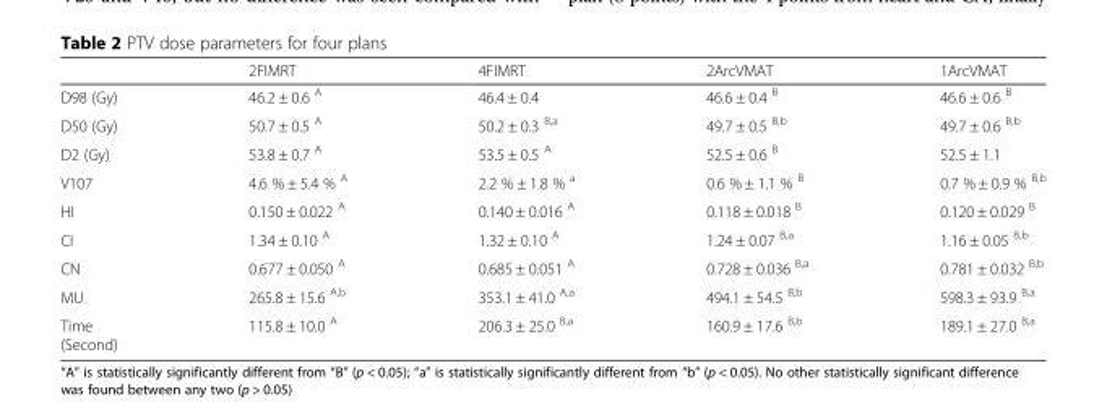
<table><thead><tr><td></td><td>2FIMRT</td><td>4FIMRT</td><td>2ArcVMAT</td><td>1ArcVMAT</td></tr></thead><tbody><tr><td>D98 (Gy)</td><td>46.2 ± 0.6 <sup>A</sup></td><td>46.4 ± 0.4</td><td>46.6 ± 0.4 <sup>B</sup></td><td>46.6 ± 0.6 <sup>B</sup></td></tr><tr><td>D50 (Gy)</td><td>50.7 ± 0.5 <sup>A</sup></td><td>50.2 ± 0.3 <sup>B,a</sup></td><td>49.7 ± 0.5 <sup>B,b</sup></td><td>49.7 ± 0.6 <sup>B,b</sup></td></tr><tr><td>D2 (Gy)</td><td>53.8 ± 0.7 <sup>A</sup></td><td>53.5 ± 0.5 <sup>A</sup></td><td>52.5 ± 0.6 <sup>B</sup></td><td>52.5 ± 1.1</td></tr><tr><td>V107</td><td>4.6 % ± 5.4 % <sup>A</sup></td><td>2.2 % ± 1.8 % <sup>a</sup></td><td>0.6 % ± 1.1 % <sup>B</sup></td><td>0.7 % ± 0.9 % <sup>B,b</sup></td></tr><tr><td>HI</td><td>0.150 ± 0.022 <sup>A</sup></td><td>0.140 ± 0.016 <sup>A</sup></td><td>0.118 ± 0.018 <sup>B</sup></td><td>0.120 ± 0.029 <sup>B</sup></td></tr><tr><td>CI</td><td>1.34 ± 0.10 <sup>A</sup></td><td>1.32 ± 0.10 <sup>A</sup></td><td>1.24 ± 0.07 <sup>B,a</sup></td><td>1.16 ± 0.05 <sup>B,b</sup></td></tr><tr><td>CN</td><td>0.677 ± 0.050 <sup>A</sup></td><td>0.685 ± 0.051 <sup>A</sup></td><td>0.728 ± 0.036 <sup>B,a</sup></td><td>0.781 ± 0.032 <sup>B,b</sup></td></tr><tr><td>MU</td><td>265.8 ± 15.6 <sup>A,b</sup></td><td>353.1 ± 41.0 <sup>A,a</sup></td><td>494.1 ± 54.5 <sup>B,b</sup></td><td>598.3 ± 93.9 <sup>B,a</sup></td></tr><tr><td>Time (Second)</td><td>115.8 ± 10.0 <sup>A</sup></td><td>206.3 ± 25.0 <sup>B,a</sup></td><td>160.9 ± 17.6 <sup>B,b</sup></td><td>189.1 ± 27.0 <sup>B,a</sup></td></tr></tbody></table>